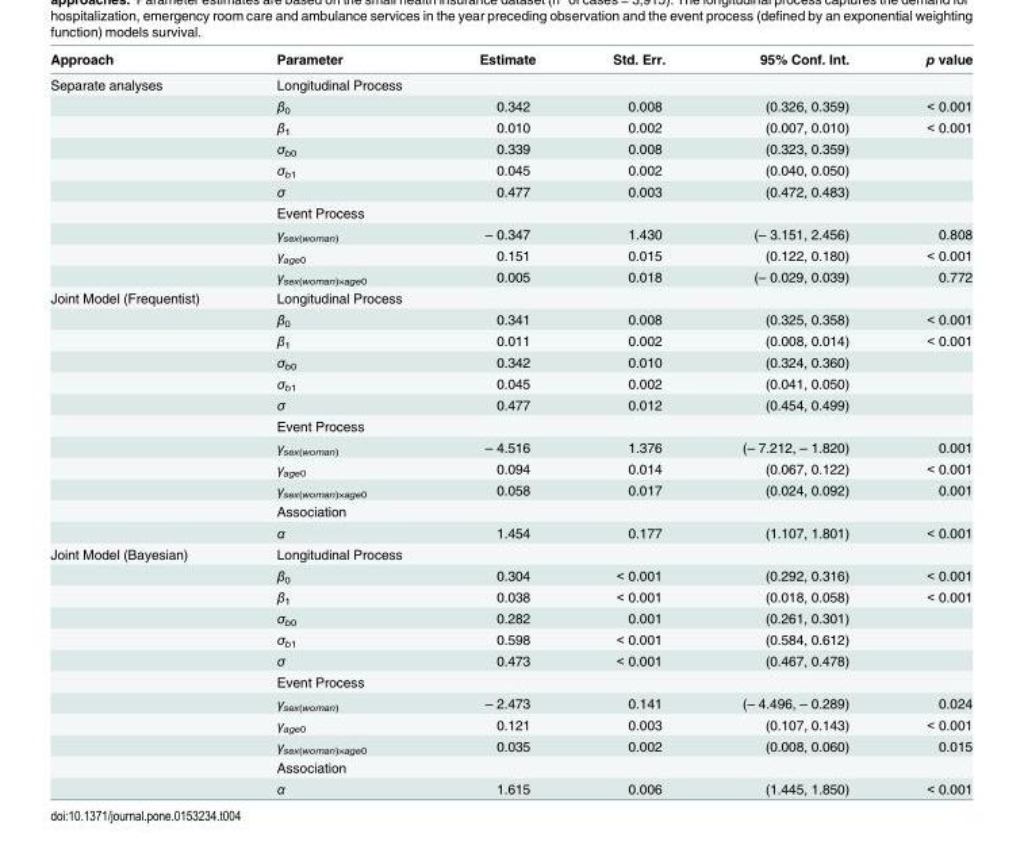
<table><thead><tr><td>Approach</td><td>Parameter</td><td>Estimate</td><td>Std. Err.</td><td>95% Conf. Int.</td><td>p‒value</td></tr></thead><tbody><tr><td rowspan="10">Separate analyses</td><td>Longitudinal Process</td><td></td><td></td><td></td><td></td></tr><tr><td>β<sub>0</sub></td><td>0.342</td><td>0.008</td><td>(0.326, 0.359)</td><td>&lt; 0.001</td></tr><tr><td>β<sub>1</sub></td><td>0.010</td><td>0.002</td><td>(0.007, 0.010)</td><td>&lt; 0.001</td></tr><tr><td>σ<sub>b0</sub></td><td>0.339</td><td>0.008</td><td>(0.323, 0.359)</td><td></td></tr><tr><td>σ<sub>b1</sub></td><td>0.045</td><td>0.002</td><td>(0.040, 0.050)</td><td></td></tr><tr><td>σ</td><td>0.477</td><td>0.003</td><td>(0.472, 0.483)</td><td></td></tr><tr><td>Event Process</td><td></td><td></td><td></td><td></td></tr><tr><td>γ<sub>sex(woman)</sub></td><td>– 0.347</td><td>1.430</td><td>(– 3.151, 2.456)</td><td>0.808</td></tr><tr><td>γ<sub>age0</sub></td><td>0.151</td><td>0.015</td><td>(0.122, 0.180)</td><td>&lt; 0.001</td></tr><tr><td>γ<sub>sex(woman)×age0</sub></td><td>0.005</td><td>0.018</td><td>(– 0.029, 0.039)</td><td>0.772</td></tr><tr><td rowspan="12">Joint Model (Frequentist)</td><td>Longitudinal Process</td><td></td><td></td><td></td><td></td></tr><tr><td>β<sub>0</sub></td><td>0.341</td><td>0.008</td><td>(0.325, 0.358)</td><td>&lt; 0.001</td></tr><tr><td>β<sub>1</sub></td><td>0.011</td><td>0.002</td><td>(0.008, 0.014)</td><td>&lt; 0.001</td></tr><tr><td>σ<sub>b0</sub></td><td>0.342</td><td>0.010</td><td>(0.324, 0.360)</td><td></td></tr><tr><td>σ<sub>b1</sub></td><td>0.045</td><td>0.002</td><td>(0.041, 0.050)</td><td></td></tr><tr><td>σ</td><td>0.477</td><td>0.012</td><td>(0.454, 0.499)</td><td></td></tr><tr><td>Event Process</td><td></td><td></td><td></td><td></td></tr><tr><td>γ<sub>sex(woman)</sub></td><td>– 4.516</td><td>1.376</td><td>(– 7.212, – 1.820)</td><td>0.001</td></tr><tr><td>γ<sub>age0</sub></td><td>0.094</td><td>0.014</td><td>(0.067, 0.122)</td><td>&lt; 0.001</td></tr><tr><td>γ<sub>sex(woman)×age0</sub></td><td>0.058</td><td>0.017</td><td>(0.024, 0.092)</td><td>0.001</td></tr><tr><td>Association</td><td></td><td></td><td></td><td></td></tr><tr><td>α</td><td>1.454</td><td>0.177</td><td>(1.107, 1.801)</td><td>&lt; 0.001</td></tr><tr><td rowspan="12">Joint Model (Bayesian)</td><td>Longitudinal Process</td><td></td><td></td><td></td><td></td></tr><tr><td>β<sub>0</sub></td><td>0.304</td><td>&lt; 0.001</td><td>(0.292, 0.316)</td><td>&lt; 0.001</td></tr><tr><td>β<sub>1</sub></td><td>0.038</td><td>&lt; 0.001</td><td>(0.018, 0.058)</td><td>&lt; 0.001</td></tr><tr><td>σ<sub>b0</sub></td><td>0.282</td><td>0.001</td><td>(0.261, 0.301)</td><td></td></tr><tr><td>σ<sub>b1</sub></td><td>0.598</td><td>&lt; 0.001</td><td>(0.584, 0.612)</td><td></td></tr><tr><td>σ</td><td>0.473</td><td>&lt; 0.001</td><td>(0.467, 0.478)</td><td></td></tr><tr><td>Event Process</td><td></td><td></td><td></td><td></td></tr><tr><td>γ<sub>sex(woman)</sub></td><td>– 2.473</td><td>0.141</td><td>(– 4.496, – 0.289)</td><td>0.024</td></tr><tr><td>γ<sub>age0</sub></td><td>0.121</td><td>0.003</td><td>(0.107, 0.143)</td><td>&lt; 0.001</td></tr><tr><td>γ<sub>sex(woman)×age0</sub></td><td>0.035</td><td>0.002</td><td>(0.008, 0.060)</td><td>0.015</td></tr><tr><td>Association</td><td></td><td></td><td></td><td></td></tr><tr><td>α</td><td>1.615</td><td>0.006</td><td>(1.445, 1.850)</td><td>&lt; 0.001</td></tr></tbody></table>